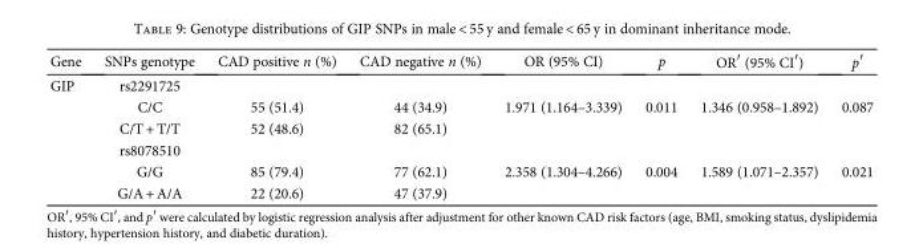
<table><thead><tr><td>Gene</td><td>SNPs genotype</td><td>CAD positive n (%)</td><td>CAD negative n (%)</td><td>OR (95% CI)</td><td>p</td><td>OR′ (95% CI′)</td><td>p′</td></tr></thead><tbody><tr><td rowspan="6">GIP</td><td>rs2291725</td><td></td><td></td><td></td><td></td><td></td><td></td></tr><tr><td>C/C</td><td>55 (51.4)</td><td>44 (34.9)</td><td>1.971 (1.164–3.339)</td><td>0.011</td><td>1.346 (0.958–1.892)</td><td>0.087</td></tr><tr><td>C/T + T/T</td><td>52 (48.6)</td><td>82 (65.1)</td><td></td><td></td><td></td><td></td></tr><tr><td>rs8078510</td><td></td><td></td><td></td><td></td><td></td><td></td></tr><tr><td>G/G</td><td>85 (79.4)</td><td>77 (62.1)</td><td>2.358 (1.304–4.266)</td><td>0.004</td><td>1.589 (1.071–2.357)</td><td>0.021</td></tr><tr><td>G/A + A/A</td><td>22 (20.6)</td><td>47 (37.9)</td><td></td><td></td><td></td><td></td></tr></tbody></table>